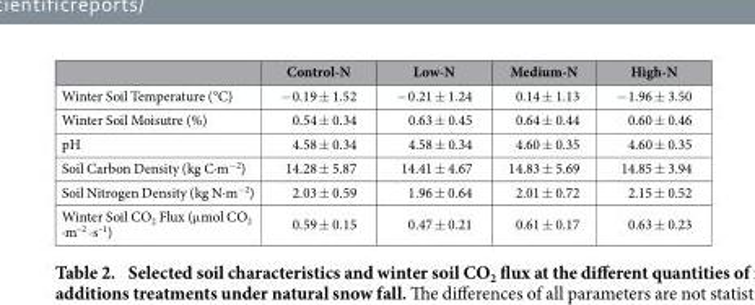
<table><thead><tr><td></td><td>Control-N</td><td>Low-N</td><td>Medium-N</td><td>High-N</td></tr></thead><tbody><tr><td>Winter Soil Temperature (°C)</td><td>− 0.19 ± 1.52</td><td>− 0.21 ± 1.24</td><td>0.14 ± 1.13</td><td>− 1.96 ± 3.50</td></tr><tr><td>Winter Soil Moisutre (%)</td><td>0.54 ± 0.34</td><td>0.63 ± 0.45</td><td>0.64 ± 0.44</td><td>0.60 ± 0.46</td></tr><tr><td>pH</td><td>4.58 ± 0.34</td><td>4.58 ± 0.34</td><td>4.60 ± 0.35</td><td>4.60 ± 0.35</td></tr><tr><td>Soil Carbon Density (kg C·m<sup>−2</sup>)</td><td>14.28 ± 5.87</td><td>14.41 ± 4.67</td><td>14.83 ± 5.69</td><td>14.85 ± 3.94</td></tr><tr><td>Soil Nitrogen Density (kg N·m<sup>−2</sup>)</td><td>2.03 ± 0.59</td><td>1.96 ± 0.64</td><td>2.01 ± 0.72</td><td>2.15 ± 0.52</td></tr><tr><td>Winter Soil CO<sub>2</sub> Flux (μ mol CO<sub>2</sub> ·m<sup>–2</sup> ·s<sup>–1</sup>)</td><td>0.59 ± 0.15</td><td>0.47 ± 0.21</td><td>0.61 ± 0.17</td><td>0.63 ± 0.23</td></tr></tbody></table>